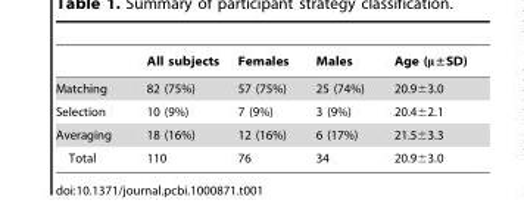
<table><thead><tr><td></td><td>All subjects</td><td>Females</td><td>Males</td><td>Age (μ±SD)</td></tr></thead><tbody><tr><td>Matching</td><td>82 (75%)</td><td>57 (75%)</td><td>25 (74%)</td><td>20.9±3.0</td></tr><tr><td>Selection</td><td>10 (9%)</td><td>7 (9%)</td><td>3 (9%)</td><td>20.4±2.1</td></tr><tr><td>Averaging</td><td>18 (16%)</td><td>12 (16%)</td><td>6 (17%)</td><td>21.5±3.3</td></tr><tr><td>Total</td><td>110</td><td>76</td><td>34</td><td>20.9±3.0</td></tr></tbody></table>